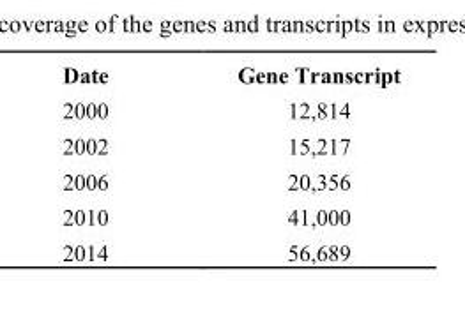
<table><thead><tr><td>Date</td><td>Gene Transcript</td></tr></thead><tbody><tr><td>2000</td><td>12,814</td></tr><tr><td>2002</td><td>15,217</td></tr><tr><td>2006</td><td>20,356</td></tr><tr><td>2010</td><td>41,000</td></tr><tr><td>2014</td><td>56,689</td></tr></tbody></table>